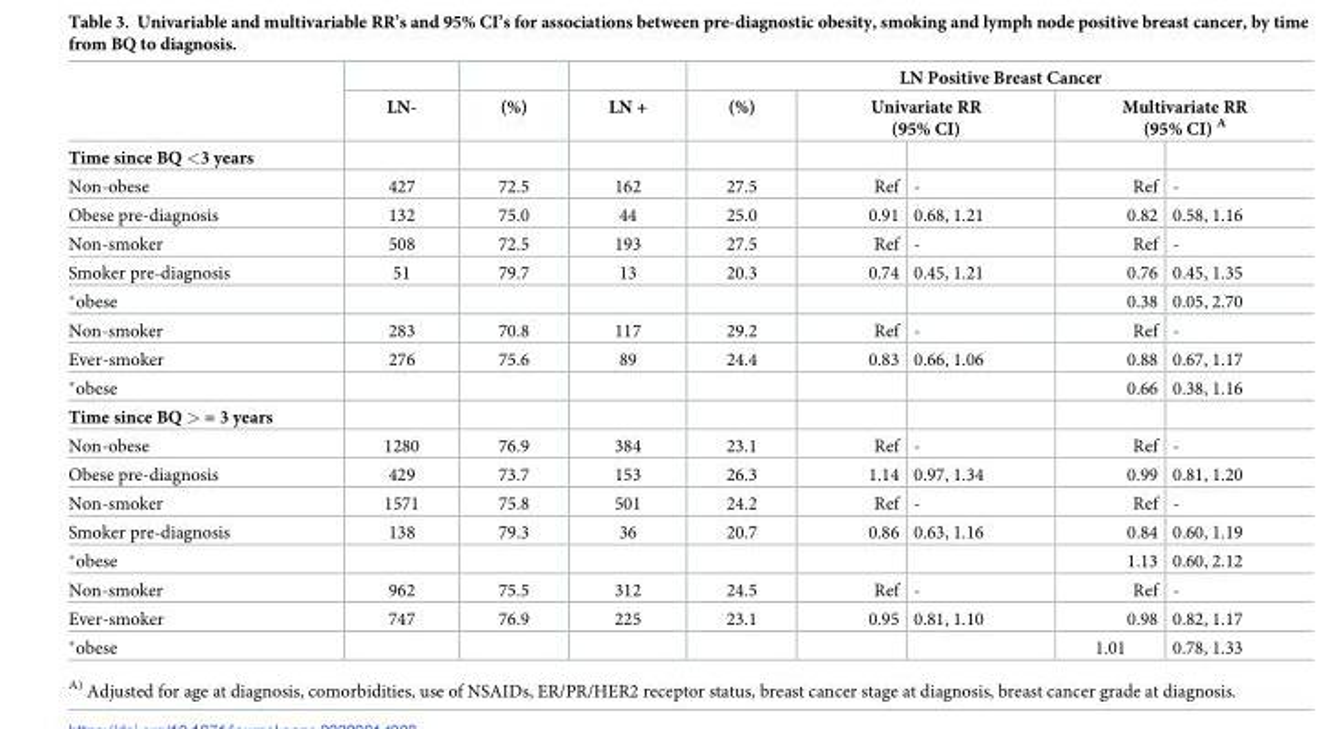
<table><thead><tr><td rowspan="3">Time since BQ &lt;3 years</td><td rowspan="3">LN-</td><td rowspan="3">(%)</td><td rowspan="3">LN +</td><td colspan="5">LN Positive Breast Cancer</td></tr><tr><td rowspan="2">(%)</td><td colspan="2">Univariate RR (95% CI)</td><td colspan="2">Multivariate RR (95% CI) <sup>A</sup></td></tr><tr><td></td><td></td><td></td><td></td></tr></thead><tbody><tr><td>Non-obese</td><td>427</td><td>72.5</td><td>162</td><td>27.5</td><td>Ref</td><td>-</td><td>Ref</td><td>-</td></tr><tr><td>Obese pre-diagnosis</td><td>132</td><td>75.0</td><td>44</td><td>25.0</td><td>0.91</td><td>0.68, 1.21</td><td>0.82</td><td>0.58, 1.16</td></tr><tr><td>Non-smoker</td><td>508</td><td>72.5</td><td>193</td><td>27.5</td><td>Ref</td><td>-</td><td>Ref</td><td>-</td></tr><tr><td>Smoker pre-diagnosis</td><td>51</td><td>79.7</td><td>13</td><td>20.3</td><td>0.74</td><td>0.45, 1.21</td><td>0.76</td><td>0.45, 1.35</td></tr><tr><td>*obese</td><td></td><td></td><td></td><td></td><td></td><td></td><td>0.38</td><td>0.05, 2.70</td></tr><tr><td>Non-smoker</td><td>283</td><td>70.8</td><td>117</td><td>29.2</td><td>Ref</td><td>-</td><td>Ref</td><td>-</td></tr><tr><td>Ever-smoker</td><td>276</td><td>75.6</td><td>89</td><td>24.4</td><td>0.83</td><td>0.66, 1.06</td><td>0.88</td><td>0.67, 1.17</td></tr><tr><td>*obese</td><td></td><td></td><td></td><td></td><td></td><td></td><td>0.66</td><td>0.38, 1.16</td></tr><tr><td colspan="9">Time since BQ &gt; = 3 years</td></tr><tr><td>Non-obese</td><td>1280</td><td>76.9</td><td>384</td><td>23.1</td><td>Ref</td><td>-</td><td>Ref</td><td>-</td></tr><tr><td>Obese pre-diagnosis</td><td>429</td><td>73.7</td><td>153</td><td>26.3</td><td>1.14</td><td>0.97, 1.34</td><td>0.99</td><td>0.81, 1.20</td></tr><tr><td>Non-smoker</td><td>1571</td><td>75.8</td><td>501</td><td>24.2</td><td>Ref</td><td>-</td><td>Ref</td><td>-</td></tr><tr><td>Smoker pre-diagnosis</td><td>138</td><td>79.3</td><td>36</td><td>20.7</td><td>0.86</td><td>0.63, 1.16</td><td>0.84</td><td>0.60, 1.19</td></tr><tr><td>*obese</td><td></td><td></td><td></td><td></td><td></td><td></td><td>1.13</td><td>0.60, 2.12</td></tr><tr><td>Non-smoker</td><td>962</td><td>75.5</td><td>312</td><td>24.5</td><td>Ref</td><td>-</td><td>Ref</td><td>-</td></tr><tr><td>Ever-smoker</td><td>747</td><td>76.9</td><td>225</td><td>23.1</td><td>0.95</td><td>0.81, 1.10</td><td>0.98</td><td>0.82, 1.17</td></tr><tr><td>*obese</td><td></td><td></td><td></td><td></td><td></td><td></td><td>1.01</td><td>0.78, 1.33</td></tr></tbody></table>